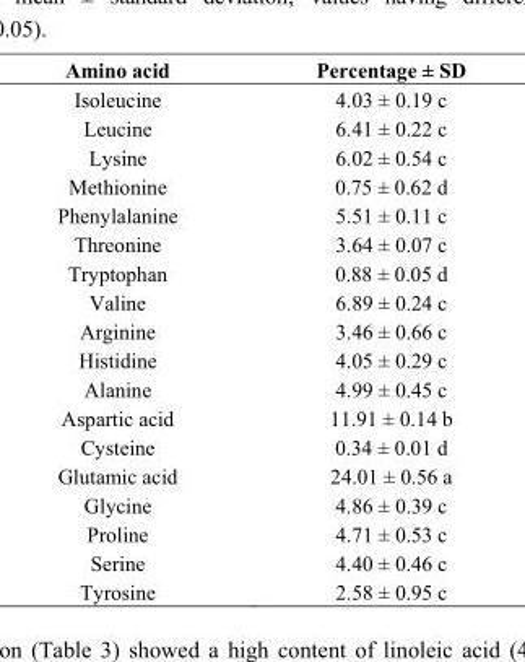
<table><thead><tr><td>Amino acid</td><td>Percentage ± SD</td></tr></thead><tbody><tr><td>Isoleucine</td><td>4.03 ± 0.19 c</td></tr><tr><td>Leucine</td><td>6.41 ± 0.22 c</td></tr><tr><td>Lysine</td><td>6.02 ± 0.54 c</td></tr><tr><td>Methionine</td><td>0.75 ± 0.62 d</td></tr><tr><td>Phenylalanine</td><td>5.51 ± 0.11 c</td></tr><tr><td>Threonine</td><td>3.64 ± 0.07 c</td></tr><tr><td>Tryptophan</td><td>0.88 ± 0.05 d</td></tr><tr><td>Valine</td><td>6.89 ± 0.24 c</td></tr><tr><td>Arginine</td><td>3.46 ± 0.66 c</td></tr><tr><td>Histidine</td><td>4.05 ± 0.29 c</td></tr><tr><td>Alanine</td><td>4.99 ± 0.45 c</td></tr><tr><td>Aspartic acid</td><td>11.91 ± 0.14 b</td></tr><tr><td>Cysteine</td><td>0.34 ± 0.01 d</td></tr><tr><td>Glutamic acid</td><td>24.01 ± 0.56 a</td></tr><tr><td>Glycine</td><td>4.86 ± 0.39 c</td></tr><tr><td>Proline</td><td>4.71 ± 0.53 c</td></tr><tr><td>Serine</td><td>4.40 ± 0.46 c</td></tr><tr><td>Tyrosine</td><td>2.58 ± 0.95 c</td></tr></tbody></table>